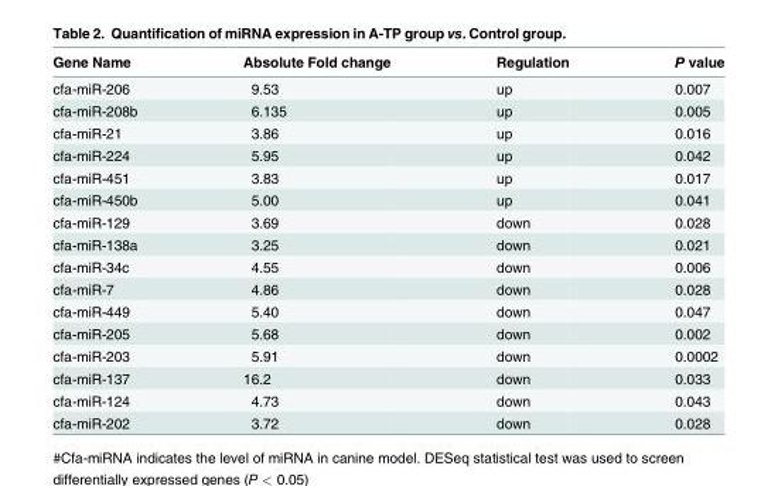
<table><thead><tr><td>Gene Name</td><td>Absolute Fold change</td><td>Regulation</td><td>P value</td></tr></thead><tbody><tr><td>cfa-miR-206</td><td>9.53</td><td>up</td><td>0.007</td></tr><tr><td>cfa-miR-208b</td><td>6.135</td><td>up</td><td>0.005</td></tr><tr><td>cfa-miR-21</td><td>3.86</td><td>up</td><td>0.016</td></tr><tr><td>cfa-miR-224</td><td>5.95</td><td>up</td><td>0.042</td></tr><tr><td>cfa-miR-451</td><td>3.83</td><td>up</td><td>0.017</td></tr><tr><td>cfa-miR-450b</td><td>5.00</td><td>up</td><td>0.041</td></tr><tr><td>cfa-miR-129</td><td>3.69</td><td>down</td><td>0.028</td></tr><tr><td>cfa-miR-138a</td><td>3.25</td><td>down</td><td>0.021</td></tr><tr><td>cfa-miR-34c</td><td>4.55</td><td>down</td><td>0.006</td></tr><tr><td>cfa-miR-7</td><td>4.86</td><td>down</td><td>0.028</td></tr><tr><td>cfa-miR-449</td><td>5.40</td><td>down</td><td>0.047</td></tr><tr><td>cfa-miR-205</td><td>5.68</td><td>down</td><td>0.002</td></tr><tr><td>cfa-miR-203</td><td>5.91</td><td>down</td><td>0.0002</td></tr><tr><td>cfa-miR-137</td><td>16.2</td><td>down</td><td>0.033</td></tr><tr><td>cfa-miR-124</td><td>4.73</td><td>down</td><td>0.043</td></tr><tr><td>cfa-miR-202</td><td>3.72</td><td>down</td><td>0.028</td></tr></tbody></table>